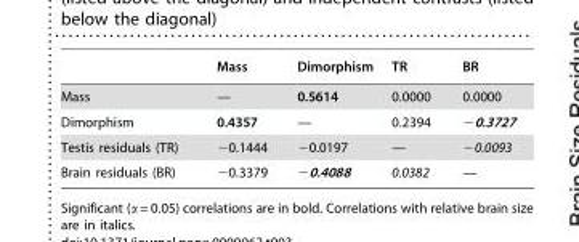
<table><thead><tr><td></td><td>Mass</td><td>Dimorphism</td><td>TR</td><td>BR</td></tr></thead><tbody><tr><td>Mass</td><td>—</td><td>0.5614</td><td>0.0000</td><td>0.0000</td></tr><tr><td>Dimorphism</td><td>0.4357</td><td>—</td><td>0.2394</td><td>−0.3727</td></tr><tr><td>Testis residuals (TR)</td><td>−0.1444</td><td>−0.0197</td><td>—</td><td>−0.0093</td></tr><tr><td>Brain residuals (BR)</td><td>−0.3379</td><td>−0.4088</td><td>0.0382</td><td>—</td></tr></tbody></table>